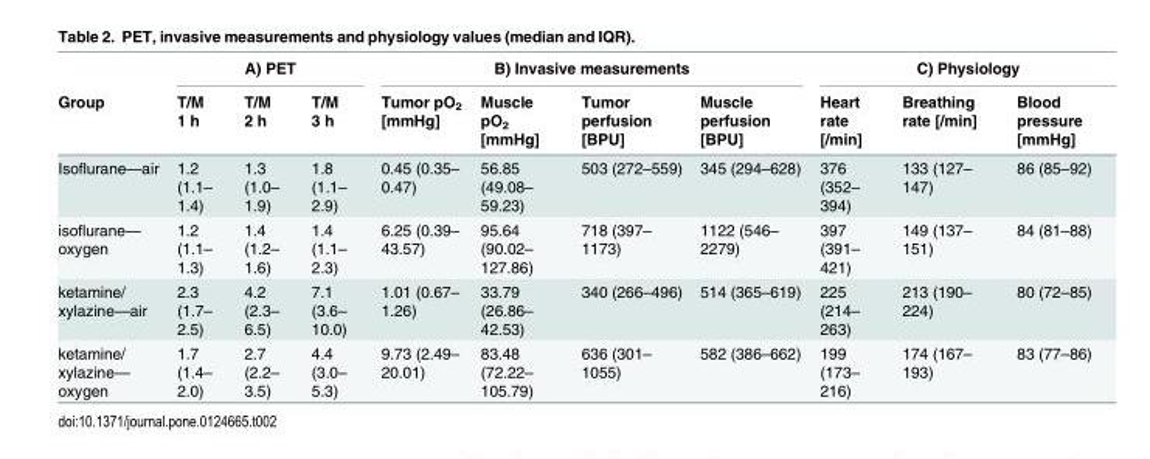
<table><thead><tr><td rowspan="2">Group</td><td colspan="3">A) PET</td><td colspan="4">B) Invasive measurements</td><td colspan="3">C) Physiology</td></tr><tr><td>T/M 1 h</td><td>T/M 2 h</td><td>T/M 3 h</td><td>Tumor pO<sub>2</sub> [mmHg]</td><td>Muscle pO<sub>2</sub> [mmHg]</td><td>Tumor perfusion [BPU]</td><td>Muscle perfusion [BPU]</td><td>Heart rate [/min]</td><td>Breathing rate [/min]</td><td>Blood pressure [mmHg]</td></tr></thead><tbody><tr><td>Isoflurane—air</td><td>1.2 (1.1– 1.4)</td><td>1.3 (1.0– 1.9)</td><td>1.8 (1.1– 2.9)</td><td>0.45 (0.35– 0.47)</td><td>56.85 (49.08– 59.23)</td><td>503 (272–559)</td><td>345 (294–628)</td><td>376 (352– 394)</td><td>133 (127– 147)</td><td>86 (85–92)</td></tr><tr><td>isoflurane— oxygen</td><td>1.2 (1.1– 1.3)</td><td>1.4 (1.2– 1.6)</td><td>1.4 (1.1– 2.3)</td><td>6.25 (0.39– 43.57)</td><td>95.64 (90.02– 127.86)</td><td>718 (397– 1173)</td><td>1122 (546– 2279)</td><td>397 (391– 421)</td><td>149 (137– 151)</td><td>84 (81–88)</td></tr><tr><td>ketamine/ xylazine—air</td><td>2.3 (1.7– 2.5)</td><td>4.2 (2.3– 6.5)</td><td>7.1 (3.6– 10.0)</td><td>1.01 (0.67– 1.26)</td><td>33.79 (26.86– 42.53)</td><td>340 (266–496)</td><td>514 (365–619)</td><td>225 (214– 263)</td><td>213 (190– 224)</td><td>80 (72–85)</td></tr><tr><td>ketamine/ xylazine— oxygen</td><td>1.7 (1.4– 2.0)</td><td>2.7 (2.2– 3.5)</td><td>4.4 (3.0– 5.3)</td><td>9.73 (2.49– 20.01)</td><td>83.48 (72.22– 105.79)</td><td>636 (301– 1055)</td><td>582 (386–662)</td><td>199 (173– 216)</td><td>174 (167– 193)</td><td>83 (77–86)</td></tr></tbody></table>